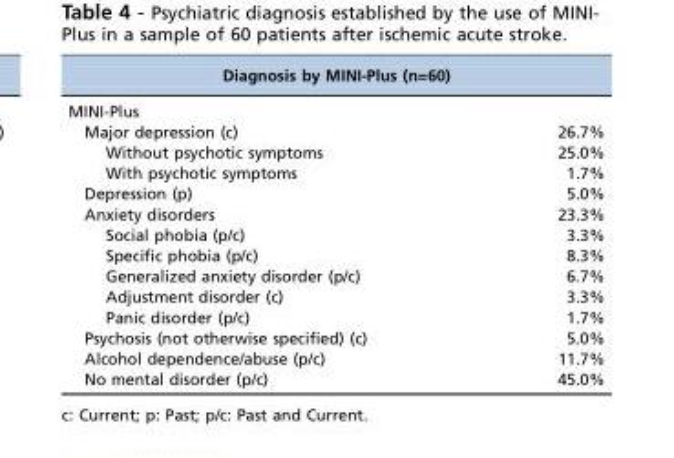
<table><thead><tr><td colspan="2">Diagnosis by MINI-Plus (n=60)</td></tr><tr><td>MINI-Plus</td><td></td></tr></thead><tbody><tr><td>Major depression (c)</td><td>26.7%</td></tr><tr><td>Without psychotic symptoms</td><td>25.0%</td></tr><tr><td>With psychotic symptoms</td><td>1.7%</td></tr><tr><td>Depression (p)</td><td>5.0%</td></tr><tr><td>Anxiety disorders</td><td>23.3%</td></tr><tr><td>Social phobia (p/c)</td><td>3.3%</td></tr><tr><td>Specific phobia (p/c)</td><td>8.3%</td></tr><tr><td>Generalized anxiety disorder (p/c)</td><td>6.7%</td></tr><tr><td>Adjustment disorder (c)</td><td>3.3%</td></tr><tr><td>Panic disorder (p/c)</td><td>1.7%</td></tr><tr><td>Psychosis (not otherwise specified) (c)</td><td>5.0%</td></tr><tr><td>Alcohol dependence/abuse (p/c)</td><td>11.7%</td></tr><tr><td>No mental disorder (p/c)</td><td>45.0%</td></tr></tbody></table>